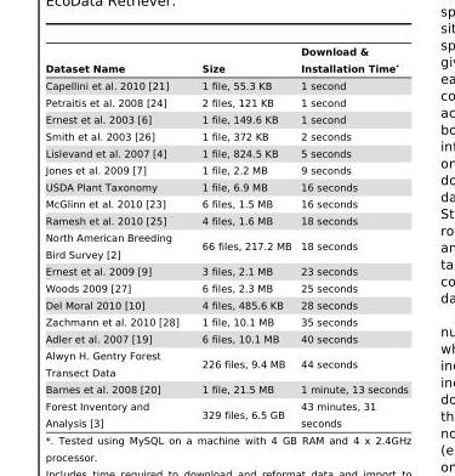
<table><thead><tr><td>Dataset Name</td><td>Size</td><td>Download &amp; Installation Time*</td></tr></thead><tbody><tr><td>Capellini et al. 2010 [21]</td><td>1 file, 55.3 KB</td><td>1 second</td></tr><tr><td>Petraitis et al. 2008 [24]</td><td>2 files, 121 KB</td><td>1 second</td></tr><tr><td>Ernest et al. 2003 [6]</td><td>1 file, 149.6 KB</td><td>1 second</td></tr><tr><td>Smith et al. 2003 [26]</td><td>1 file, 372 KB</td><td>2 seconds</td></tr><tr><td>Lislevand et al. 2007 [4]</td><td>1 file, 824.5 KB</td><td>5 seconds</td></tr><tr><td>Jones et al. 2009 [7]</td><td>1 file, 2.2 MB</td><td>9 seconds</td></tr><tr><td>USDA Plant Taxonomy</td><td>1 file, 6.9 MB</td><td>16 seconds</td></tr><tr><td>McGlinn et al. 2010 [23]</td><td>6 files, 1.5 MB</td><td>16 seconds</td></tr><tr><td>Ramesh et al. 2010 [25]</td><td>4 files, 1.6 MB</td><td>18 seconds</td></tr><tr><td>North American Breeding Bird Survey [2]</td><td>66 files, 217.2 MB</td><td>18 seconds</td></tr><tr><td>Ernest et al. 2009 [9]</td><td>3 files, 2.1 MB</td><td>23 seconds</td></tr><tr><td>Woods 2009 [27]</td><td>6 files, 2.3 MB</td><td>25 seconds</td></tr><tr><td>Del Moral 2010 [10]</td><td>4 files, 485.6 KB</td><td>28 seconds</td></tr><tr><td>Zachmann et al. 2010 [28]</td><td>1 file, 10.1 MB</td><td>35 seconds</td></tr><tr><td>Adler et al. 2007 [19]</td><td>6 files, 10.1 MB</td><td>40 seconds</td></tr><tr><td>Alwyn H. Gentry Forest Transect Data</td><td>226 files, 9.4 MB</td><td>44 seconds</td></tr><tr><td>Barnes et al. 2008 [20]</td><td>1 file, 21.5 MB</td><td>1 minute, 13 seconds</td></tr><tr><td>Forest Inventory and Analysis [3]</td><td>329 files, 6.5 GB</td><td>43 minutes, 31 seconds</td></tr></tbody></table>